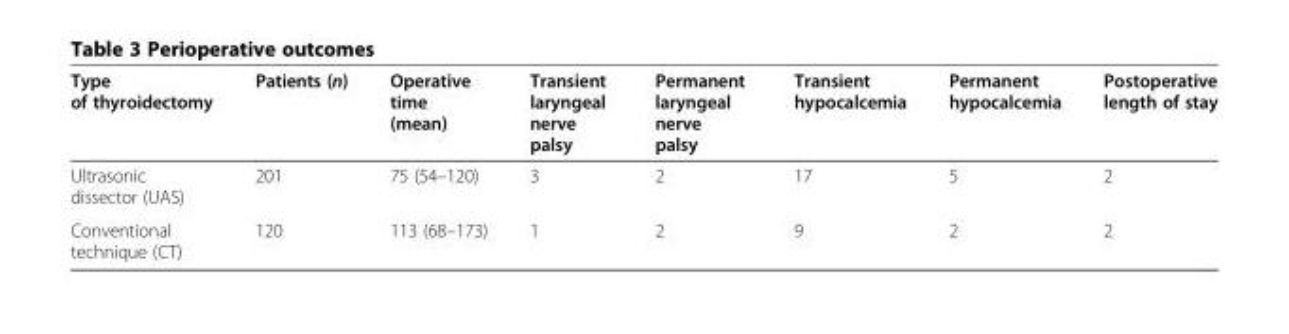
<table><thead><tr><td>Type of thyroidectomy</td><td>Patients (n)</td><td>Operative time (mean)</td><td>Transient laryngeal nerve palsy</td><td>Permanent laryngeal nerve palsy</td><td>Transient hypocalcemia</td><td>Permanent hypocalcemia</td><td>Postoperative length of stay</td></tr></thead><tbody><tr><td>Ultrasonic dissector (UAS)</td><td>201</td><td>75 (54–120)</td><td>3</td><td>2</td><td>17</td><td>5</td><td>2</td></tr><tr><td>Conventional technique (CT)</td><td>120</td><td>113 (68–173)</td><td>1</td><td>2</td><td>9</td><td>2</td><td>2</td></tr></tbody></table>